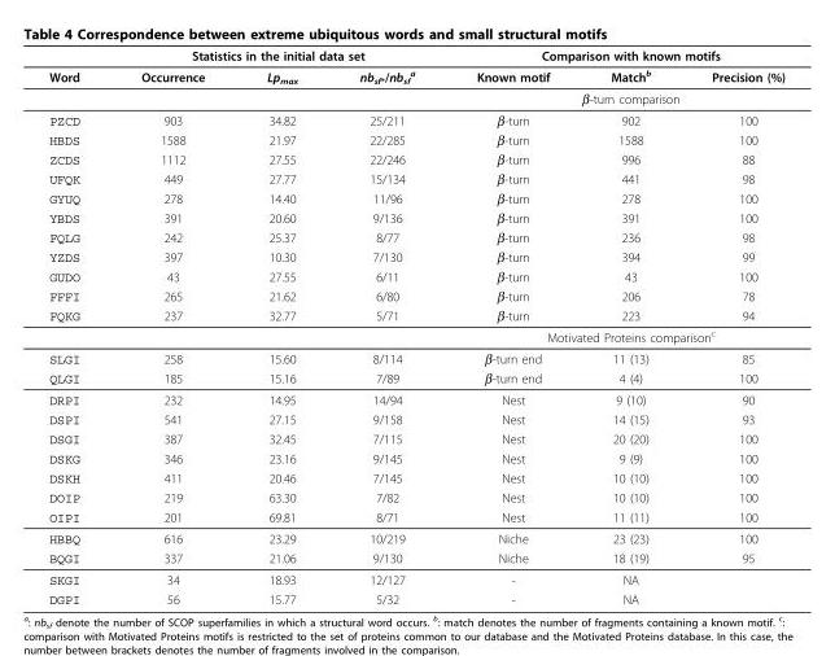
<table><thead><tr><td rowspan="2">Word</td><td colspan="3">Statistics in the initial data set</td><td colspan="3">Comparison with known motifs</td></tr><tr><td>Occurrence</td><td>Lp<sub>max</sub></td><td>nb<sub>sf*</sub>/nb<sub>sf</sub> <sup>a</sup></td><td>Known motif</td><td>Match<sup>b</sup></td><td>Precision (%)</td></tr></thead><tbody><tr><td></td><td></td><td></td><td></td><td colspan="3">β-turn comparison</td></tr><tr><td>PZCD</td><td>903</td><td>34.82</td><td>25/211</td><td>β-turn</td><td>902</td><td>100</td></tr><tr><td>HBDS</td><td>1588</td><td>21.97</td><td>22/285</td><td>β-turn</td><td>1588</td><td>100</td></tr><tr><td>ZCDS</td><td>1112</td><td>27.55</td><td>22/246</td><td>β-turn</td><td>996</td><td>88</td></tr><tr><td>UFQK</td><td>449</td><td>27.77</td><td>15/134</td><td>β-turn</td><td>441</td><td>98</td></tr><tr><td>GYUQ</td><td>278</td><td>14.40</td><td>11/96</td><td>β-turn</td><td>278</td><td>100</td></tr><tr><td>YBDS</td><td>391</td><td>20.60</td><td>9/136</td><td>β-turn</td><td>391</td><td>100</td></tr><tr><td>FQLG</td><td>242</td><td>25.37</td><td>8/77</td><td>β-turn</td><td>236</td><td>98</td></tr><tr><td>YZDS</td><td>397</td><td>10.30</td><td>7/130</td><td>β-turn</td><td>394</td><td>99</td></tr><tr><td>GUDO</td><td>43</td><td>27.55</td><td>6/11</td><td>β-turn</td><td>43</td><td>100</td></tr><tr><td>FFFI</td><td>265</td><td>21.62</td><td>6/80</td><td>β-turn</td><td>206</td><td>78</td></tr><tr><td rowspan="2">FQKG</td><td>237</td><td>32.77</td><td>5/71</td><td>β-turn</td><td>223</td><td>94</td></tr><tr><td></td><td></td><td></td><td colspan="3">Motivated Proteins comparison<sup>c</sup></td></tr><tr><td>SLGI</td><td>258</td><td>15.60</td><td>8/114</td><td>β-turn end</td><td>11 (13)</td><td>85</td></tr><tr><td>QLGI</td><td>185</td><td>15.16</td><td>7/89</td><td>β-turn end</td><td>4 (4)</td><td>100</td></tr><tr><td>DRPI</td><td>232</td><td>14.95</td><td>14/94</td><td>Nest</td><td>9 (10)</td><td>90</td></tr><tr><td>DSPI</td><td>541</td><td>27.15</td><td>9/158</td><td>Nest</td><td>14 (15)</td><td>93</td></tr><tr><td>DSGI</td><td>387</td><td>32.45</td><td>7/115</td><td>Nest</td><td>20 (20)</td><td>100</td></tr><tr><td>DSKG</td><td>346</td><td>23.16</td><td>9/145</td><td>Nest</td><td>9 (9)</td><td>100</td></tr><tr><td>DSKH</td><td>411</td><td>20.46</td><td>7/145</td><td>Nest</td><td>10 (10)</td><td>100</td></tr><tr><td>DOIP</td><td>219</td><td>63.30</td><td>7/82</td><td>Nest</td><td>10 (10)</td><td>100</td></tr><tr><td>OIPI</td><td>201</td><td>69.81</td><td>8/71</td><td>Nest</td><td>11 (11)</td><td>100</td></tr><tr><td>HBBQ</td><td>616</td><td>23.29</td><td>10/219</td><td>Niche</td><td>23 (23)</td><td>100</td></tr><tr><td>BQGI</td><td>337</td><td>21.06</td><td>9/130</td><td>Niche</td><td>18 (19)</td><td>95</td></tr><tr><td>SKGI</td><td>34</td><td>18.93</td><td>12/127</td><td>-</td><td>NA</td><td></td></tr><tr><td>DGPI</td><td>56</td><td>15.77</td><td>5/32</td><td>-</td><td>NA</td><td></td></tr></tbody></table>